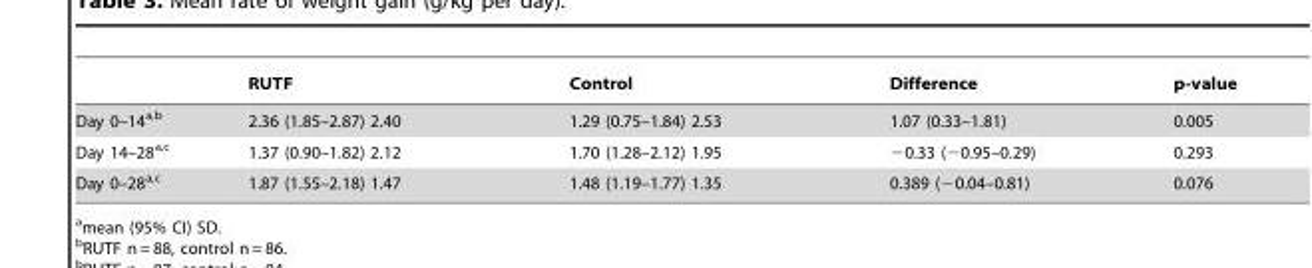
<table><thead><tr><td></td><td>RUTF</td><td>Control</td><td>Difference</td><td>p-value</td></tr></thead><tbody><tr><td>Day 0–14a,b</td><td>2.36 (1.85–2.87) 2.40</td><td>1.29 (0.75–1.84) 2.53</td><td>1.07 (0.33–1.81)</td><td>0.005</td></tr><tr><td>Day 14–28a,c</td><td>1.37 (0.90–1.82) 2.12</td><td>1.70 (1.28–2.12) 1.95</td><td>−0.33 (−0.95–0.29)</td><td>0.293</td></tr><tr><td>Day 0–28a,c</td><td>1.87 (1.55–2.18) 1.47</td><td>1.48 (1.19–1.77) 1.35</td><td>0.389 (−0.04–0.81)</td><td>0.076</td></tr></tbody></table>